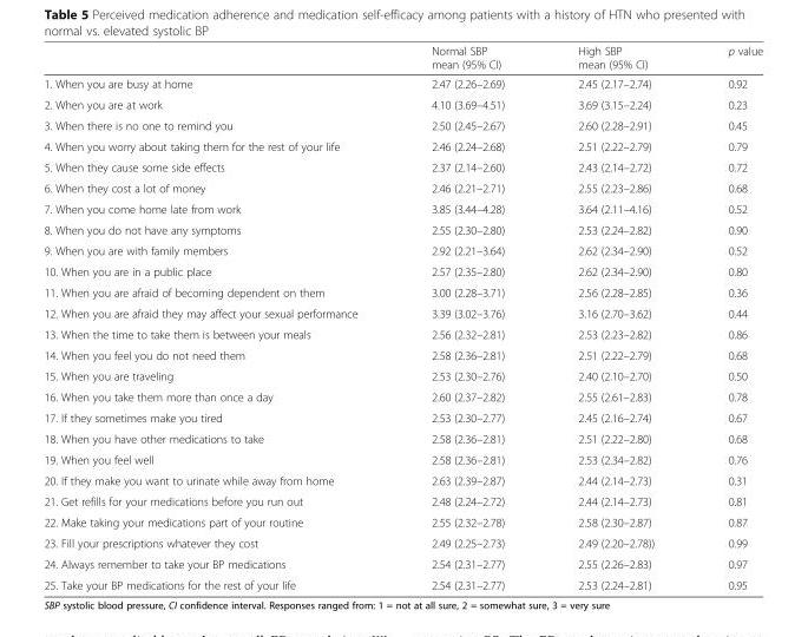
<table><thead><tr><td></td><td>Normal SBP mean (95% CI)</td><td>High SBP mean (95% CI)</td><td>p value</td></tr></thead><tbody><tr><td>1. When you are busy at home</td><td>2.47 (2.26–2.69)</td><td>2.45 (2.17–2.74)</td><td>0.92</td></tr><tr><td>2. When you are at work</td><td>4.10 (3.69–4.51)</td><td>3.69 (3.15–2.24)</td><td>0.23</td></tr><tr><td>3. When there is no one to remind you</td><td>2.50 (2.45–2.67)</td><td>2.60 (2.28–2.91)</td><td>0.45</td></tr><tr><td>4. When you worry about taking them for the rest of your life</td><td>2.46 (2.24–2.68)</td><td>2.51 (2.22–2.79)</td><td>0.79</td></tr><tr><td>5. When they cause some side effects</td><td>2.37 (2.14–2.60)</td><td>2.43 (2.14–2.72)</td><td>0.72</td></tr><tr><td>6. When they cost a lot of money</td><td>2.46 (2.21–2.71)</td><td>2.55 (2.23–2.86)</td><td>0.68</td></tr><tr><td>7. When you come home late from work</td><td>3.85 (3.44–4.28)</td><td>3.64 (2.11–4.16)</td><td>0.52</td></tr><tr><td>8. When you do not have any symptoms</td><td>2.55 (2.30–2.80)</td><td>2.53 (2.24–2.82)</td><td>0.90</td></tr><tr><td>9. When you are with family members</td><td>2.92 (2.21–3.64)</td><td>2.62 (2.34–2.90)</td><td>0.52</td></tr><tr><td>10. When you are in a public place</td><td>2.57 (2.35–2.80)</td><td>2.62 (2.34–2.90)</td><td>0.80</td></tr><tr><td>11. When you are afraid of becoming dependent on them</td><td>3.00 (2.28–3.71)</td><td>2.56 (2.28–2.85)</td><td>0.36</td></tr><tr><td>12. When you are afraid they may affect your sexual performance</td><td>3.39 (3.02–3.76)</td><td>3.16 (2.70–3.62)</td><td>0.44</td></tr><tr><td>13. When the time to take them is between your meals</td><td>2.56 (2.32–2.81)</td><td>2.53 (2.23–2.82)</td><td>0.86</td></tr><tr><td>14. When you feel you do not need them</td><td>2.58 (2.36–2.81)</td><td>2.51 (2.22–2.79)</td><td>0.68</td></tr><tr><td>15. When you are traveling</td><td>2.53 (2.30–2.76)</td><td>2.40 (2.10–2.70)</td><td>0.50</td></tr><tr><td>16. When you take them more than once a day</td><td>2.60 (2.37–2.82)</td><td>2.55 (2.61–2.83)</td><td>0.78</td></tr><tr><td>17. If they sometimes make you tired</td><td>2.53 (2.30–2.77)</td><td>2.45 (2.16–2.74)</td><td>0.67</td></tr><tr><td>18. When you have other medications to take</td><td>2.58 (2.36–2.81)</td><td>2.51 (2.22–2.80)</td><td>0.68</td></tr><tr><td>19. When you feel well</td><td>2.58 (2.36–2.81)</td><td>2.53 (2.34–2.82)</td><td>0.76</td></tr><tr><td>20. If they make you want to urinate while away from home</td><td>2.63 (2.39–2.87)</td><td>2.44 (2.14–2.73)</td><td>0.31</td></tr><tr><td>21. Get refills for your medications before you run out</td><td>2.48 (2.24–2.72)</td><td>2.44 (2.14–2.73)</td><td>0.81</td></tr><tr><td>22. Make taking your medications part of your routine</td><td>2.55 (2.32–2.78)</td><td>2.58 (2.30–2.87)</td><td>0.87</td></tr><tr><td>23. Fill your prescriptions whatever they cost</td><td>2.49 (2.25–2.73)</td><td>2.49 (2.20–2.78))</td><td>0.99</td></tr><tr><td>24. Always remember to take your BP medications</td><td>2.54 (2.31–2.77)</td><td>2.55 (2.26–2.83)</td><td>0.97</td></tr><tr><td>25. Take your BP medications for the rest of your life</td><td>2.54 (2.31–2.77)</td><td>2.53 (2.24–2.81)</td><td>0.95</td></tr></tbody></table>